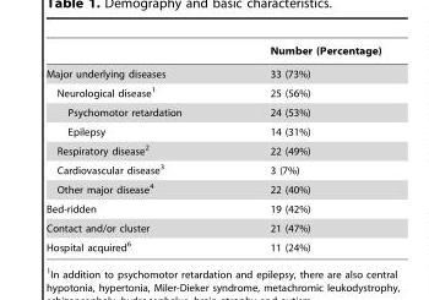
<table><thead><tr><td></td><td>Number (Percentage)</td></tr></thead><tbody><tr><td>Major underlying diseases</td><td>33 (73%)</td></tr><tr><td>Neurological disease<sup>1</sup></td><td>25 (56%)</td></tr><tr><td>Psychomotor retardation</td><td>24 (53%)</td></tr><tr><td>Epilepsy</td><td>14 (31%)</td></tr><tr><td>Respiratory disease<sup>2</sup></td><td>22 (49%)</td></tr><tr><td>Cardiovascular disease<sup>3</sup></td><td>3 (7%)</td></tr><tr><td>Other major disease<sup>4</sup></td><td>22 (40%)</td></tr><tr><td>Bed-ridden</td><td>19 (42%)</td></tr><tr><td>Contact and/or cluster</td><td>21 (47%)</td></tr><tr><td>Hospital acquired<sup>6</sup></td><td>11 (24%)</td></tr></tbody></table>